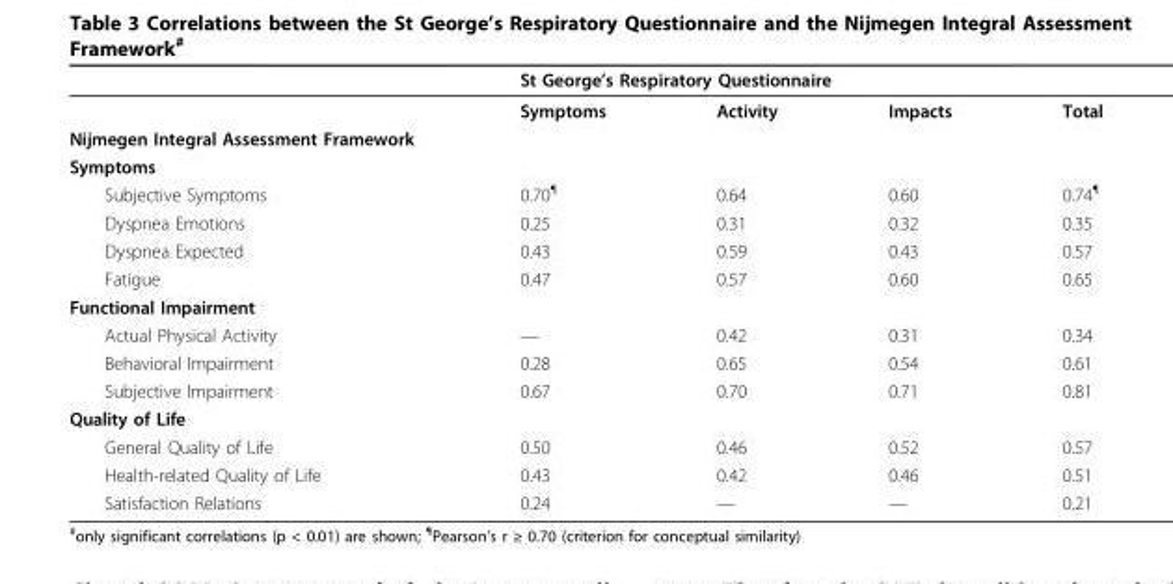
<table><thead><tr><td rowspan="2"></td><td colspan="4">St George’s Respiratory Questionnaire</td></tr><tr><td>Symptoms</td><td>Activity</td><td>Impacts</td><td>Total</td></tr></thead><tbody><tr><td colspan="5">Nijmegen Integral Assessment Framework</td></tr><tr><td colspan="5">Symptoms</td></tr><tr><td>Subjective Symptoms</td><td>0.70<sup>¶</sup></td><td>0.64</td><td>0.60</td><td>0.74<sup>¶</sup></td></tr><tr><td>Dyspnea Emotions</td><td>0.25</td><td>0.31</td><td>0.32</td><td>0.35</td></tr><tr><td>Dyspnea Expected</td><td>0.43</td><td>0.59</td><td>0.43</td><td>0.57</td></tr><tr><td>Fatigue</td><td>0.47</td><td>0.57</td><td>0.60</td><td>0.65</td></tr><tr><td colspan="5">Functional Impairment</td></tr><tr><td>Actual Physical Activity</td><td>—</td><td>0.42</td><td>0.31</td><td>0.34</td></tr><tr><td>Behavioral Impairment</td><td>0.28</td><td>0.65</td><td>0.54</td><td>0.61</td></tr><tr><td>Subjective Impairment</td><td>0.67</td><td>0.70</td><td>0.71</td><td>0.81</td></tr><tr><td colspan="5">Quality of Life</td></tr><tr><td>General Quality of Life</td><td>0.50</td><td>0.46</td><td>0.52</td><td>0.57</td></tr><tr><td>Health-related Quality of Life</td><td>0.43</td><td>0.42</td><td>0.46</td><td>0.51</td></tr><tr><td>Satisfaction Relations</td><td>0.24</td><td>—</td><td>—</td><td>0.21</td></tr></tbody></table>